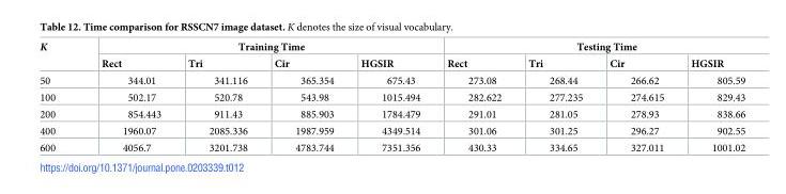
<table><thead><tr><td rowspan="2">K</td><td colspan="4">Training Time</td><td colspan="4">Testing Time</td></tr><tr><td>Rect</td><td>Tri</td><td>Cir</td><td>HGSIR</td><td>Rect</td><td>Tri</td><td>Cir</td><td>HGSIR</td></tr></thead><tbody><tr><td>50</td><td>344.01</td><td>341.116</td><td>365.354</td><td>675.43</td><td>273.08</td><td>268.44</td><td>266.62</td><td>805.59</td></tr><tr><td>100</td><td>502.17</td><td>520.78</td><td>543.98</td><td>1015.494</td><td>282.622</td><td>277.235</td><td>274.615</td><td>829.43</td></tr><tr><td>200</td><td>854.443</td><td>911.43</td><td>885.903</td><td>1784.479</td><td>291.01</td><td>281.05</td><td>278.93</td><td>838.66</td></tr><tr><td>400</td><td>1960.07</td><td>2085.336</td><td>1987.959</td><td>4349.514</td><td>301.06</td><td>301.25</td><td>296.27</td><td>902.55</td></tr><tr><td>600</td><td>4056.7</td><td>3201.738</td><td>4783.744</td><td>7351.356</td><td>430.33</td><td>334.65</td><td>327.011</td><td>1001.02</td></tr></tbody></table>